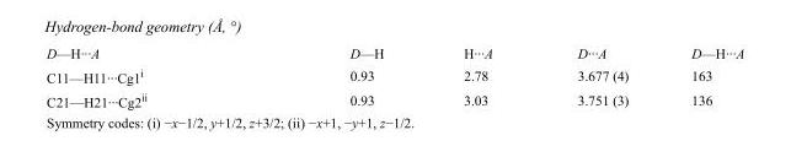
<table><tbody><tr><td>D—H···A</td><td>D—H</td><td>H···A</td><td>D···A</td><td>D—H···A</td></tr><tr><td>C11—H11···Cg1<sup>i</sup></td><td>0.93</td><td>2.78</td><td>3.677 (4)</td><td>163</td></tr><tr><td>C21—H21···Cg2<sup>ii</sup></td><td>0.93</td><td>3.03</td><td>3.751 (3)</td><td>136</td></tr></tbody></table>